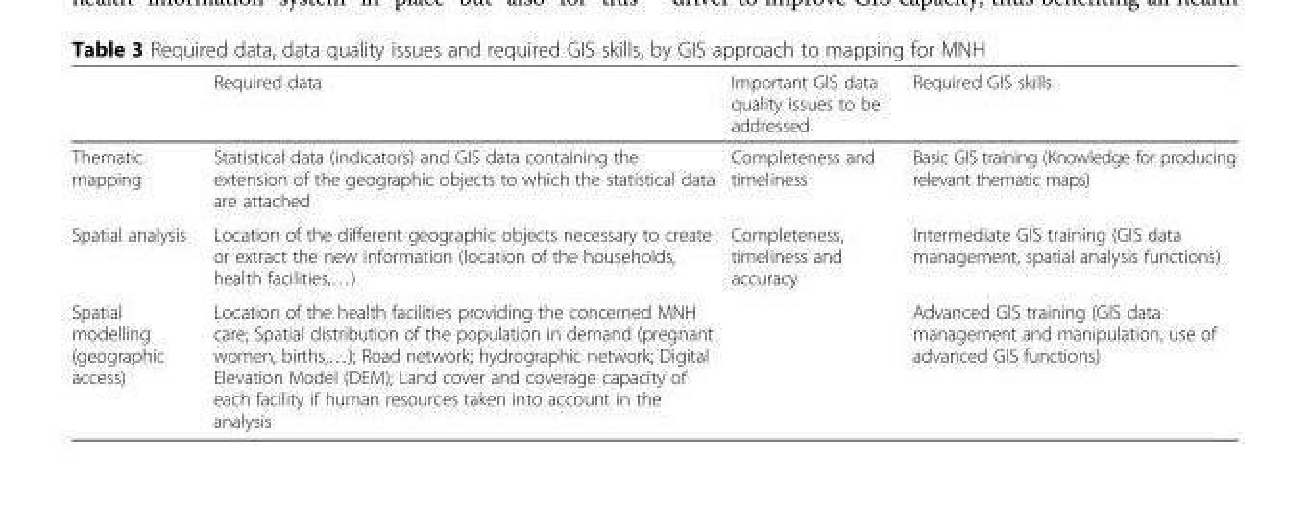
<table><thead><tr><td></td><td>Required data</td><td>Important GIS data quality issues to be addressed</td><td>Required GIS skills</td></tr></thead><tbody><tr><td>Thematic mapping</td><td>Statistical data (indicators) and GIS data containing the extension of the geographic objects to which the statistical data are attached</td><td>Completeness and timeliness</td><td>Basic GIS training (Knowledge for producing relevant thematic maps)</td></tr><tr><td>Spatial analysis</td><td>Location of the different geographic objects necessary to create or extract the new information (location of the households, health facilities,…)</td><td>Completeness, timeliness and accuracy</td><td>Intermediate GIS training (GIS data management, spatial analysis functions)</td></tr><tr><td>Spatial modelling (geographic access)</td><td>Location of the health facilities providing the concerned MNH care; Spatial distribution of the population in demand (pregnant women, births,…); Road network; hydrographic network; Digital Elevation Model (DEM); Land cover and coverage capacity of each facility if human resources taken into account in the analysis</td><td></td><td>Advanced GIS training (GIS data management and manipulation, use of advanced GIS functions)</td></tr></tbody></table>